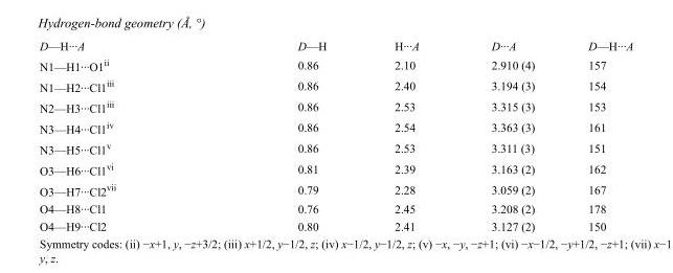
<table><tbody><tr><td>D—H···A</td><td>D—H</td><td>H···A</td><td>D···A</td><td>D—H···A</td></tr><tr><td>N1—H1···O1<sup>ii</sup></td><td>0.86</td><td>2.10</td><td>2.910 (4)</td><td>157</td></tr><tr><td>N1—H2···Cl1<sup>iii</sup></td><td>0.86</td><td>2.40</td><td>3.194 (3)</td><td>154</td></tr><tr><td>N2—H3···Cl1<sup>iii</sup></td><td>0.86</td><td>2.53</td><td>3.315 (3)</td><td>153</td></tr><tr><td>N3—H4···Cl1<sup>iv</sup></td><td>0.86</td><td>2.54</td><td>3.363 (3)</td><td>161</td></tr><tr><td>N3—H5···Cl1<sup>v</sup></td><td>0.86</td><td>2.53</td><td>3.311 (3)</td><td>151</td></tr><tr><td>O3—H6···Cl1<sup>vi</sup></td><td>0.81</td><td>2.39</td><td>3.163 (2)</td><td>162</td></tr><tr><td>O3—H7···Cl2<sup>vii</sup></td><td>0.79</td><td>2.28</td><td>3.059 (2)</td><td>167</td></tr><tr><td>O4—H8···Cl1</td><td>0.76</td><td>2.45</td><td>3.208 (2)</td><td>178</td></tr><tr><td>O4—H9···Cl2</td><td>0.80</td><td>2.41</td><td>3.127 (2)</td><td>150</td></tr></tbody></table>